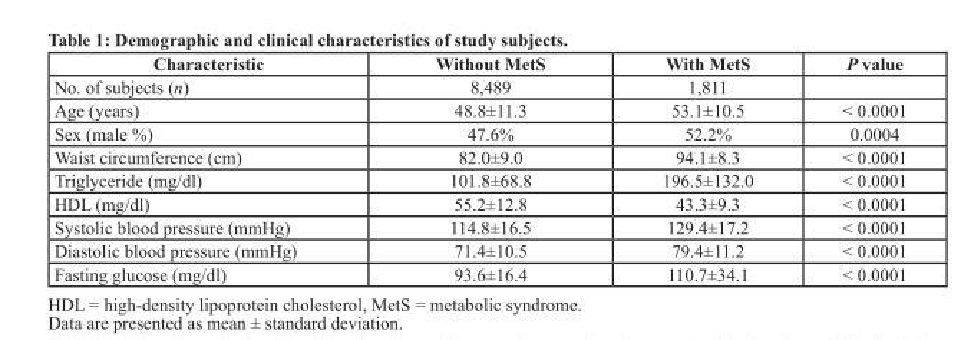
<table><thead><tr><td>Characteristic</td><td>Without MetS</td><td>With MetS</td><td>P value</td></tr></thead><tbody><tr><td>No. of subjects (n)</td><td>8,489</td><td>1,811</td><td></td></tr><tr><td>Age (years)</td><td>48.8±11.3</td><td>53.1±10.5</td><td>&lt; 0.0001</td></tr><tr><td>Sex (male %)</td><td>47.6%</td><td>52.2%</td><td>0.0004</td></tr><tr><td>Waist circumference (cm)</td><td>82.0±9.0</td><td>94.1±8.3</td><td>&lt; 0.0001</td></tr><tr><td>Triglyceride (mg/dl)</td><td>101.8±68.8</td><td>196.5±132.0</td><td>&lt; 0.0001</td></tr><tr><td>HDL (mg/dl)</td><td>55.2±12.8</td><td>43.3±9.3</td><td>&lt; 0.0001</td></tr><tr><td>Systolic blood pressure (mmHg)</td><td>114.8±16.5</td><td>129.4±17.2</td><td>&lt; 0.0001</td></tr><tr><td>Diastolic blood pressure (mmHg)</td><td>71.4±10.5</td><td>79.4±11.2</td><td>&lt; 0.0001</td></tr><tr><td>Fasting glucose (mg/dl)</td><td>93.6±16.4</td><td>110.7±34.1</td><td>&lt; 0.0001</td></tr></tbody></table>